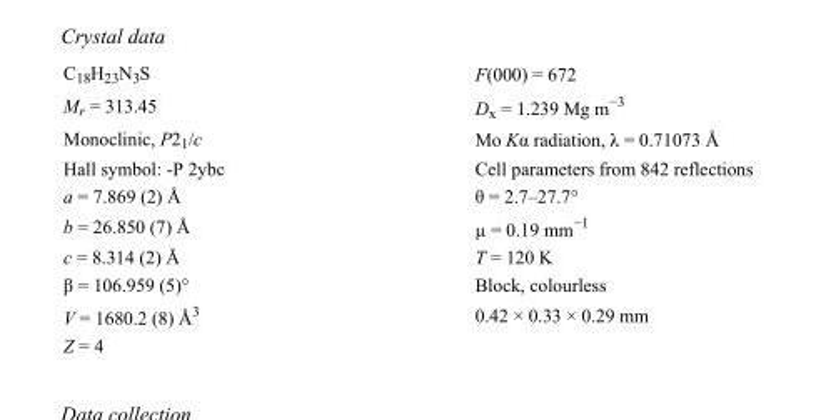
<table><tbody><tr><td>C<sub>18</sub>H<sub>23</sub>N<sub>3</sub>S</td><td>F(000) = 672</td></tr><tr><td>M<sub>r</sub> = 313.45</td><td>D<sub>x</sub> = 1.239 Mg m<sup>−3</sup></td></tr><tr><td>Monoclinic, P2<sub>1</sub>/c</td><td>Mo Kα radiation, λ = 0.71073 Å</td></tr><tr><td>Hall symbol: -P 2ybc</td><td>Cell parameters from 842 reflections</td></tr><tr><td>a = 7.869 (2) Å</td><td>θ = 2.7–27.7°</td></tr><tr><td>b = 26.850 (7) Å</td><td>µ = 0.19 mm<sup>−1</sup></td></tr><tr><td>c = 8.314 (2) Å</td><td>T = 120 K</td></tr><tr><td>β = 106.959 (5)°</td><td>Block, colourless</td></tr><tr><td>V = 1680.2 (8) Å<sup>3</sup></td><td>0.42 × 0.33 × 0.29 mm</td></tr><tr><td>Z = 4</td><td></td></tr></tbody></table>